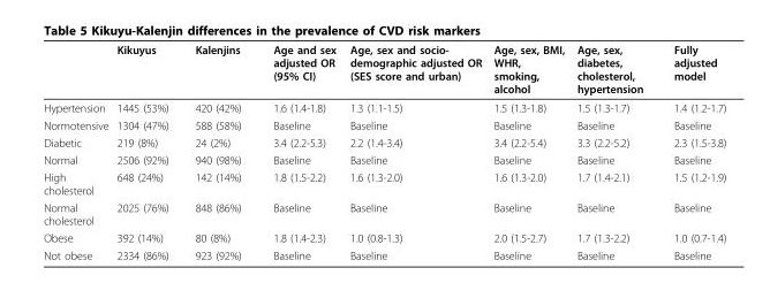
<table><thead><tr><td></td><td>Kikuyus</td><td>Kalenjins</td><td>Age and sex adjusted OR (95% CI)</td><td>Age, sex and socio- demographic adjusted OR (SES score and urban)</td><td>Age, sex, BMI, WHR, smoking, alcohol</td><td>Age, sex, diabetes, cholesterol, hypertension</td><td>Fully adjusted model</td></tr></thead><tbody><tr><td>Hypertension</td><td>1445 (53%)</td><td>420 (42%)</td><td>1.6 (1.4-1.8)</td><td>1.3 (1.1-1.5)</td><td>1.5 (1.3-1.8)</td><td>1.5 (1.3-1.7)</td><td>1.4 (1.2-1.7)</td></tr><tr><td>Normotensive</td><td>1304 (47%)</td><td>588 (58%)</td><td>Baseline</td><td>Baseline</td><td>Baseline</td><td>Baseline</td><td>Baseline</td></tr><tr><td>Diabetic</td><td>219 (8%)</td><td>24 (2%)</td><td>3.4 (2.2-5.3)</td><td>2.2 (1.4-3.4)</td><td>3.4 (2.2-5.4)</td><td>3.3 (2.2-5.2)</td><td>2.3 (1.5-3.8)</td></tr><tr><td>Normal</td><td>2506 (92%)</td><td>940 (98%)</td><td>Baseline</td><td>Baseline</td><td>Baseline</td><td>Baseline</td><td>Baseline</td></tr><tr><td>High cholesterol</td><td>648 (24%)</td><td>142 (14%)</td><td>1.8 (1.5-2.2)</td><td>1.6 (1.3-2.0)</td><td>1.6 (1.3-2.0)</td><td>1.7 (1.4-2.1)</td><td>1.5 (1.2-1.9)</td></tr><tr><td>Normal cholesterol</td><td>2025 (76%)</td><td>848 (86%)</td><td>Baseline</td><td>Baseline</td><td>Baseline</td><td>Baseline</td><td>Baseline</td></tr><tr><td>Obese</td><td>392 (14%)</td><td>80 (8%)</td><td>1.8 (1.4-2.3)</td><td>1.0 (0.8-1.3)</td><td>2.0 (1.5-2.7)</td><td>1.7 (1.3-2.2)</td><td>1.0 (0.7-1.4)</td></tr><tr><td>Not obese</td><td>2334 (86%)</td><td>923 (92%)</td><td>Baseline</td><td>Baseline</td><td>Baseline</td><td>Baseline</td><td>Baseline</td></tr></tbody></table>